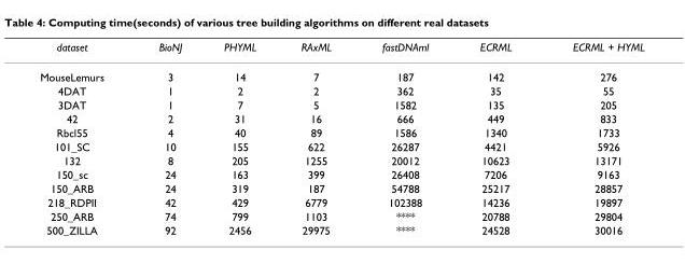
<table><thead><tr><td>dataset</td><td>BioNJ</td><td>PHYML</td><td>RAxML</td><td>fastDNAml</td><td>ECRML</td><td>ECRML + HYML</td></tr></thead><tbody><tr><td>MouseLemurs</td><td>3</td><td>14</td><td>7</td><td>187</td><td>142</td><td>276</td></tr><tr><td>4DAT</td><td>1</td><td>2</td><td>2</td><td>362</td><td>35</td><td>55</td></tr><tr><td>3DAT</td><td>1</td><td>7</td><td>5</td><td>1582</td><td>135</td><td>205</td></tr><tr><td>42</td><td>2</td><td>31</td><td>16</td><td>666</td><td>449</td><td>833</td></tr><tr><td>Rbcl55</td><td>4</td><td>40</td><td>89</td><td>1586</td><td>1340</td><td>1733</td></tr><tr><td>101_SC</td><td>10</td><td>155</td><td>622</td><td>26287</td><td>4421</td><td>5926</td></tr><tr><td>132</td><td>8</td><td>205</td><td>1255</td><td>20012</td><td>10623</td><td>13171</td></tr><tr><td>150_sc</td><td>24</td><td>163</td><td>399</td><td>26408</td><td>7206</td><td>9163</td></tr><tr><td>150_ARB</td><td>24</td><td>319</td><td>187</td><td>54788</td><td>25217</td><td>28857</td></tr><tr><td>218_RDPII</td><td>42</td><td>429</td><td>6779</td><td>102388</td><td>14236</td><td>19897</td></tr><tr><td>250_ARB</td><td>74</td><td>799</td><td>1103</td><td>****</td><td>20788</td><td>29804</td></tr><tr><td>500_ZILLA</td><td>92</td><td>2456</td><td>29975</td><td>****</td><td>24528</td><td>30016</td></tr></tbody></table>